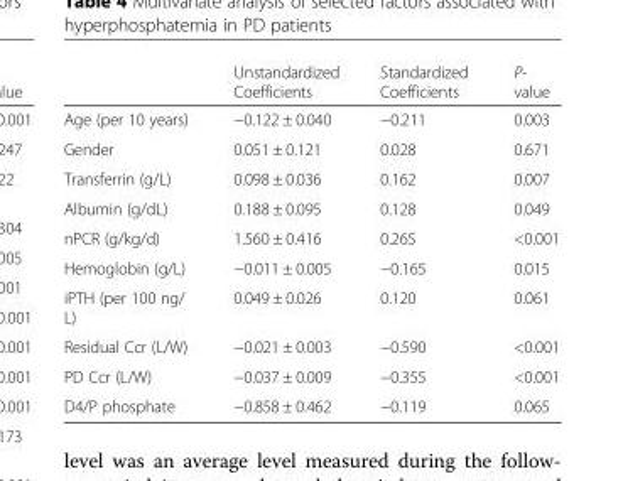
<table><thead><tr><td></td><td>Unstandardized Coefficients</td><td>Standardized Coefficients</td><td>P- value</td></tr></thead><tbody><tr><td>Age (per 10 years)</td><td>−0.122 ± 0.040</td><td>−0.211</td><td>0.003</td></tr><tr><td>Gender</td><td>0.051 ± 0.121</td><td>0.028</td><td>0.671</td></tr><tr><td>Transferrin (g/L)</td><td>0.098 ± 0.036</td><td>0.162</td><td>0.007</td></tr><tr><td>Albumin (g/dL)</td><td>0.188 ± 0.095</td><td>0.128</td><td>0.049</td></tr><tr><td>nPCR (g/kg/d)</td><td>1.560 ± 0.416</td><td>0.265</td><td>&lt;0.001</td></tr><tr><td>Hemoglobin (g/L)</td><td>−0.011 ± 0.005</td><td>−0.165</td><td>0.015</td></tr><tr><td>iPTH (per 100 ng/ L)</td><td>0.049 ± 0.026</td><td>0.120</td><td>0.061</td></tr><tr><td>Residual Ccr (L/W)</td><td>−0.021 ± 0.003</td><td>−0.590</td><td>&lt;0.001</td></tr><tr><td>PD Ccr (L/W)</td><td>−0.037 ± 0.009</td><td>−0.355</td><td>&lt;0.001</td></tr><tr><td>D4/P phosphate</td><td>−0.858 ± 0.462</td><td>−0.119</td><td>0.065</td></tr></tbody></table>